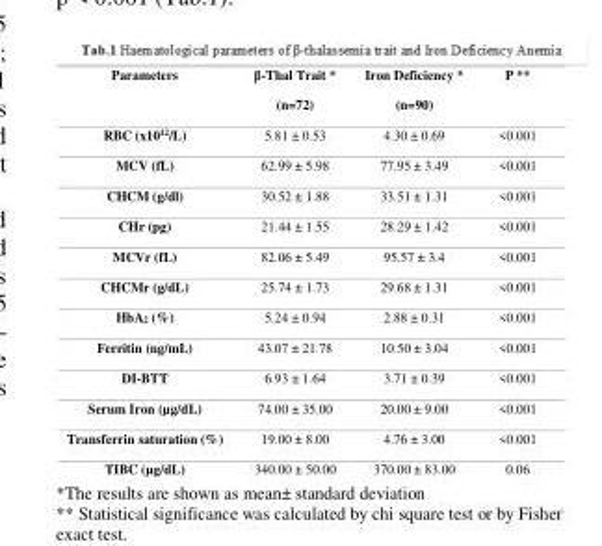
<table><thead><tr><td>Parameters</td><td>β-Thal Trait * (n=72)</td><td>Iron Deficiency * (n=90)</td><td>P **</td></tr></thead><tbody><tr><td>RBC (x10<sup>12</sup>/L)</td><td>5.81 ± 0.53</td><td>4.30 ± 0.69</td><td>&lt;0.001</td></tr><tr><td>MCV (fL)</td><td>62.99 ± 5.98</td><td>77.95 ± 3.49</td><td>&lt;0.001</td></tr><tr><td>CHCM (g/dl)</td><td>30.52 ± 1.88</td><td>33.51 ± 1.31</td><td>&lt;0.001</td></tr><tr><td>CHr (pg)</td><td>21.44 ± 1.55</td><td>28.29 ± 1.42</td><td>&lt;0.001</td></tr><tr><td>MCVr (fL)</td><td>82.06 ± 5.49</td><td>95.57 ± 3.4</td><td>&lt;0.001</td></tr><tr><td>CHCMr (g/dL)</td><td>25.74 ± 1.73</td><td>29.68 ± 1.31</td><td>&lt;0.001</td></tr><tr><td>HbA<sub>2</sub> (%)</td><td>5.24 ± 0.94</td><td>2.88 ± 0.31</td><td>&lt;0.001</td></tr><tr><td>Ferritin (ng/mL)</td><td>43.07 ± 21.78</td><td>10.50 ± 3.04</td><td>&lt;0.001</td></tr><tr><td>DI-BTT</td><td>6.93 ± 1.64</td><td>3.71 ± 0.39</td><td>&lt;0.001</td></tr><tr><td>Serum Iron (µg/dL)</td><td>74.00 ± 35.00</td><td>20.00 ± 9.00</td><td>&lt;0.001</td></tr><tr><td>Transferrin saturation (%)</td><td>19.00 ± 8.00</td><td>4.76 ± 3.00</td><td>&lt;0.001</td></tr><tr><td>TIBC (µg/dL)</td><td>340.00 ± 50.00</td><td>370.00 ± 83.00</td><td>0.06</td></tr></tbody></table>